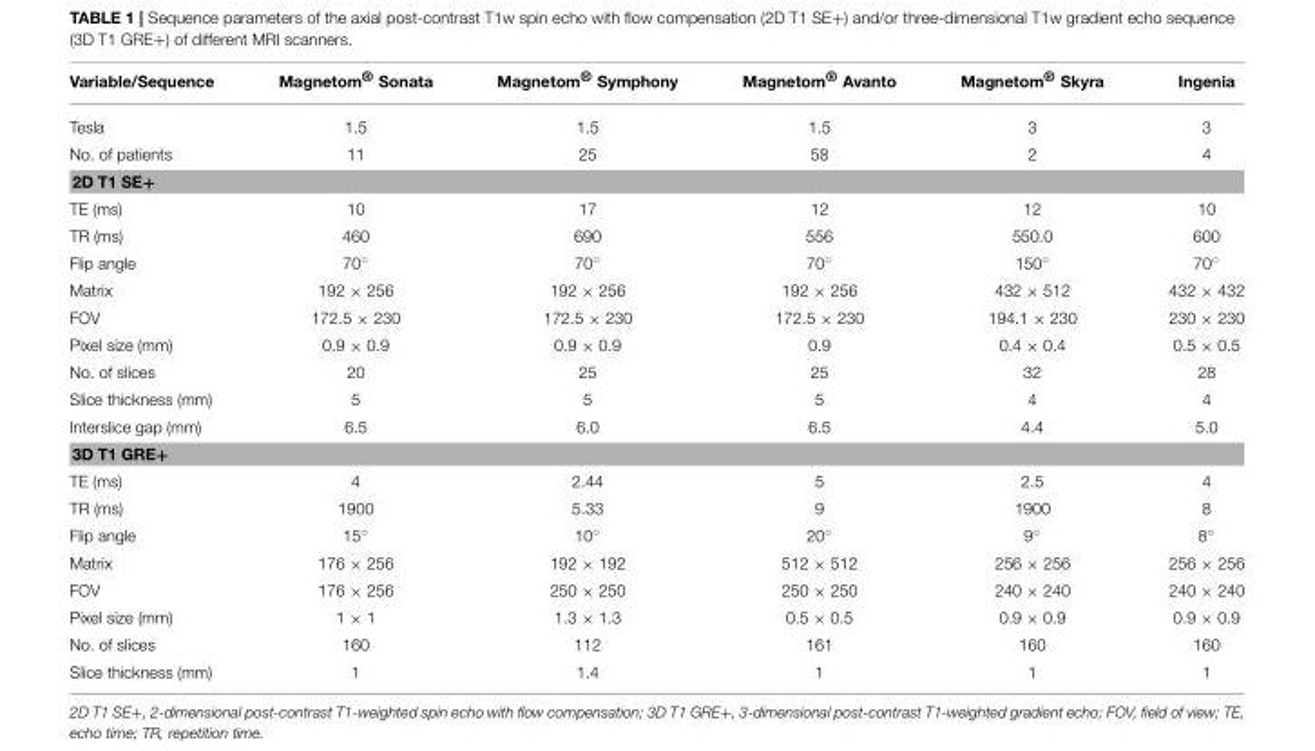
<table><thead><tr><td>Variable/Sequence</td><td>Magnetom® Sonata</td><td>Magnetom® Symphony</td><td>Magnetom® Avanto</td><td>Magnetom® Skyra</td><td>Ingenia</td></tr></thead><tbody><tr><td>Tesla</td><td>1.5</td><td>1.5</td><td>1.5</td><td>3</td><td>3</td></tr><tr><td>No. of patients</td><td>11</td><td>25</td><td>58</td><td>2</td><td>4</td></tr><tr><td colspan="6">2D T1 SE+</td></tr><tr><td>TE (ms)</td><td>10</td><td>17</td><td>12</td><td>12</td><td>10</td></tr><tr><td>TR (ms)</td><td>460</td><td>690</td><td>556</td><td>550.0</td><td>600</td></tr><tr><td>Flip angle</td><td>70◦</td><td>70◦</td><td>70◦</td><td>150◦</td><td>70◦</td></tr><tr><td>Matrix</td><td>192 × 256</td><td>192 × 256</td><td>192 × 256</td><td>432 × 512</td><td>432 × 432</td></tr><tr><td>FOV</td><td>172.5 × 230</td><td>172.5 × 230</td><td>172.5 × 230</td><td>194.1 × 230</td><td>230 × 230</td></tr><tr><td>Pixel size (mm)</td><td>0.9 × 0.9</td><td>0.9 × 0.9</td><td>0.9</td><td>0.4 × 0.4</td><td>0.5 × 0.5</td></tr><tr><td>No. of slices</td><td>20</td><td>25</td><td>25</td><td>32</td><td>28</td></tr><tr><td>Slice thickness (mm)</td><td>5</td><td>5</td><td>5</td><td>4</td><td>4</td></tr><tr><td>Interslice gap (mm)</td><td>6.5</td><td>6.0</td><td>6.5</td><td>4.4</td><td>5.0</td></tr><tr><td colspan="6">3D T1 GRE+</td></tr><tr><td>TE (ms)</td><td>4</td><td>2.44</td><td>5</td><td>2.5</td><td>4</td></tr><tr><td>TR (ms)</td><td>1900</td><td>5.33</td><td>9</td><td>1900</td><td>8</td></tr><tr><td>Flip angle</td><td>15◦</td><td>10◦</td><td>20◦</td><td>9◦</td><td>8◦</td></tr><tr><td>Matrix</td><td>176 × 256</td><td>192 × 192</td><td>512 × 512</td><td>256 × 256</td><td>256 × 256</td></tr><tr><td>FOV</td><td>176 × 256</td><td>250 × 250</td><td>250 × 250</td><td>240 × 240</td><td>240 × 240</td></tr><tr><td>Pixel size (mm)</td><td>1 × 1</td><td>1.3 × 1.3</td><td>0.5 × 0.5</td><td>0.9 × 0.9</td><td>0.9 × 0.9</td></tr><tr><td>No. of slices</td><td>160</td><td>112</td><td>161</td><td>160</td><td>160</td></tr><tr><td>Slice thickness (mm)</td><td>1</td><td>1.4</td><td>1</td><td>1</td><td>1</td></tr></tbody></table>